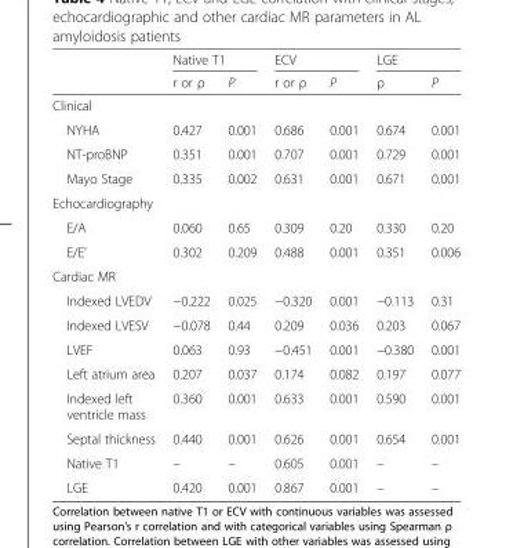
<table><thead><tr><td rowspan="2"></td><td colspan="2">Native T1</td><td colspan="2">ECV</td><td colspan="2">LGE</td></tr><tr><td>r or ρ</td><td>P</td><td>r or ρ</td><td>P</td><td>ρ</td><td>P</td></tr></thead><tbody><tr><td colspan="7">Clinical</td></tr><tr><td>NYHA</td><td>0.427</td><td>0.001</td><td>0.686</td><td>0.001</td><td>0.674</td><td>0.001</td></tr><tr><td>NT-proBNP</td><td>0.351</td><td>0.001</td><td>0.707</td><td>0.001</td><td>0.729</td><td>0.001</td></tr><tr><td>Mayo Stage</td><td>0.335</td><td>0.002</td><td>0.631</td><td>0.001</td><td>0.671</td><td>0.001</td></tr><tr><td colspan="7">Echocardiography</td></tr><tr><td>E/A</td><td>0.060</td><td>0.65</td><td>0.309</td><td>0.20</td><td>0.330</td><td>0.20</td></tr><tr><td>E/E’</td><td>0.302</td><td>0.209</td><td>0.488</td><td>0.001</td><td>0.351</td><td>0.006</td></tr><tr><td colspan="7">Cardiac MR</td></tr><tr><td>Indexed LVEDV</td><td>−0.222</td><td>0.025</td><td>−0.320</td><td>0.001</td><td>−0.113</td><td>0.31</td></tr><tr><td>Indexed LVESV</td><td>−0.078</td><td>0.44</td><td>0.209</td><td>0.036</td><td>0.203</td><td>0.067</td></tr><tr><td>LVEF</td><td>0.063</td><td>0.93</td><td>−0.451</td><td>0.001</td><td>−0.380</td><td>0.001</td></tr><tr><td>Left atrium area</td><td>0.207</td><td>0.037</td><td>0.174</td><td>0.082</td><td>0.197</td><td>0.077</td></tr><tr><td>Indexed left ventricle mass</td><td>0.360</td><td>0.001</td><td>0.633</td><td>0.001</td><td>0.590</td><td>0.001</td></tr><tr><td>Septal thickness</td><td>0.440</td><td>0.001</td><td>0.626</td><td>0.001</td><td>0.654</td><td>0.001</td></tr><tr><td>Native T1</td><td>–</td><td>–</td><td>0.605</td><td>0.001</td><td>–</td><td>–</td></tr><tr><td>LGE</td><td>0.420</td><td>0.001</td><td>0.867</td><td>0.001</td><td>–</td><td>–</td></tr></tbody></table>